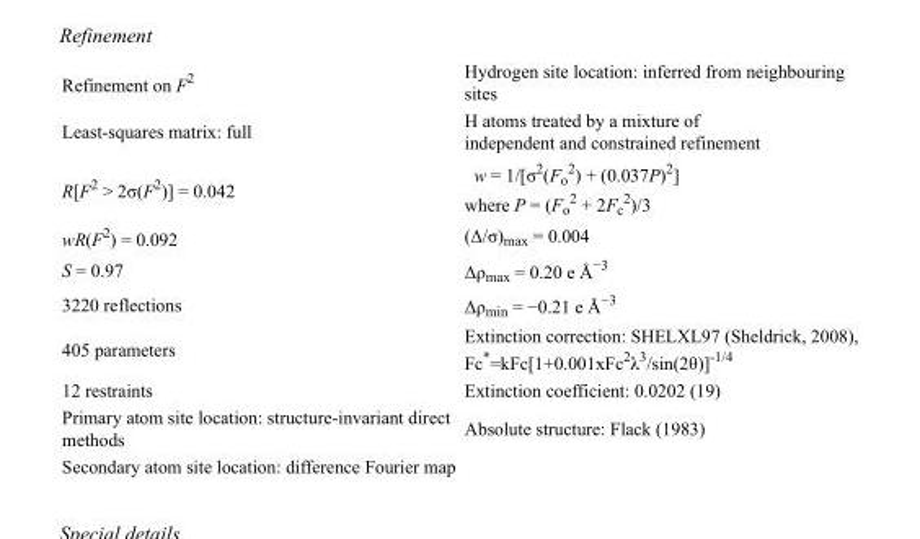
<table><tbody><tr><td>Refinement on F<sup>2</sup></td><td>Hydrogen site location: inferred from neighbouring sites</td></tr><tr><td>Least-squares matrix: full</td><td>H atoms treated by a mixture of independent and constrained refinement</td></tr><tr><td>R[F<sup>2</sup> &gt; 2σ(F<sup>2</sup>)] = 0.042</td><td>w = 1/[σ<sup>2</sup>(F<sub>o</sub> <sup>2</sup>) + (0.037P)<sup>2</sup>] where P = (F<sub>o</sub> <sup>2</sup> + 2F<sub>c</sub> <sup>2</sup>)/3</td></tr><tr><td>wR(F<sup>2</sup>) = 0.092</td><td>(Δ/σ)<sub>max</sub> = 0.004</td></tr><tr><td>S = 0.97</td><td>Δρ<sub>max</sub> = 0.20 e Å<sup>−3</sup></td></tr><tr><td>3220 reflections</td><td>Δρ<sub>min</sub> = −0.21 e Å<sup>−3</sup></td></tr><tr><td>405 parameters</td><td>Extinction correction: SHELXL97 (Sheldrick, 2008), Fc*=kFc[1+0.001xFc<sup>2</sup>λ<sup>3</sup>/sin(2θ)]<sup>-1/4</sup></td></tr><tr><td>12 restraints</td><td>Extinction coefficient: 0.0202 (19)</td></tr><tr><td>Primary atom site location: structure-invariant direct methods</td><td>Absolute structure: Flack (1983)</td></tr><tr><td>Secondary atom site location: difference Fourier map</td><td></td></tr></tbody></table>